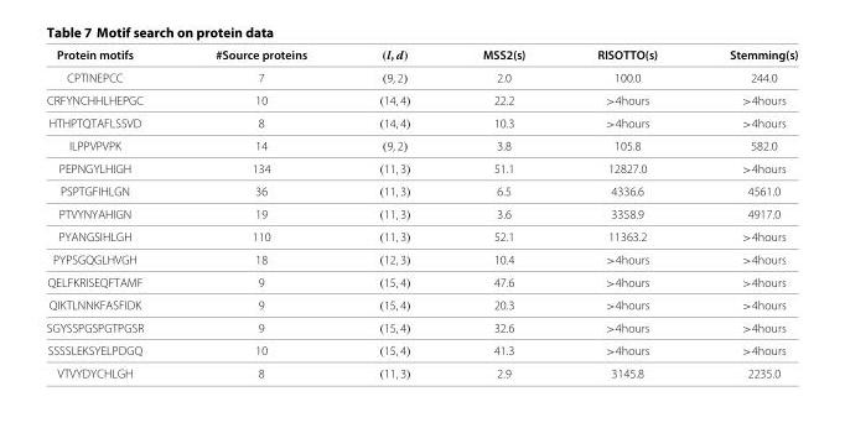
<table><thead><tr><td>Protein motifs</td><td>#Source proteins</td><td>(l, d)</td><td>MSS2(s)</td><td>RISOTTO(s)</td><td>Stemming(s)</td></tr></thead><tbody><tr><td>CPTINEPCC</td><td>7</td><td>(9, 2)</td><td>2.0</td><td>100.0</td><td>244.0</td></tr><tr><td>CRFYNCHHLHEPGC</td><td>10</td><td>(14, 4)</td><td>22.2</td><td>&gt;4hours</td><td>&gt;4hours</td></tr><tr><td>HTHPTQTAFLSSVD</td><td>8</td><td>(14, 4)</td><td>10.3</td><td>&gt;4hours</td><td>&gt;4hours</td></tr><tr><td>ILPPVPVPK</td><td>14</td><td>(9, 2)</td><td>3.8</td><td>105.8</td><td>582.0</td></tr><tr><td>PEPNGYLHIGH</td><td>134</td><td>(11, 3)</td><td>51.1</td><td>12827.0</td><td>&gt;4hours</td></tr><tr><td>PSPTGFIHLGN</td><td>36</td><td>(11, 3)</td><td>6.5</td><td>4336.6</td><td>4561.0</td></tr><tr><td>PTVYNYAHIGN</td><td>19</td><td>(11, 3)</td><td>3.6</td><td>3358.9</td><td>4917.0</td></tr><tr><td>PYANGSIHLGH</td><td>110</td><td>(11, 3)</td><td>52.1</td><td>11363.2</td><td>&gt;4hours</td></tr><tr><td>PYPSGQGLHVGH</td><td>18</td><td>(12, 3)</td><td>10.4</td><td>&gt;4hours</td><td>&gt;4hours</td></tr><tr><td>QELFKRISEQFTAMF</td><td>9</td><td>(15, 4)</td><td>47.6</td><td>&gt;4hours</td><td>&gt;4hours</td></tr><tr><td>QIKTLNNKFASFIDK</td><td>9</td><td>(15, 4)</td><td>20.3</td><td>&gt;4hours</td><td>&gt;4hours</td></tr><tr><td>SGYSSPGSPGTPGSR</td><td>9</td><td>(15, 4)</td><td>32.6</td><td>&gt;4hours</td><td>&gt;4hours</td></tr><tr><td>SSSSLEKSYELPDGQ</td><td>10</td><td>(15, 4)</td><td>41.3</td><td>&gt;4hours</td><td>&gt;4hours</td></tr><tr><td>VTVYDYCHLGH</td><td>8</td><td>(11, 3)</td><td>2.9</td><td>3145.8</td><td>2235.0</td></tr></tbody></table>